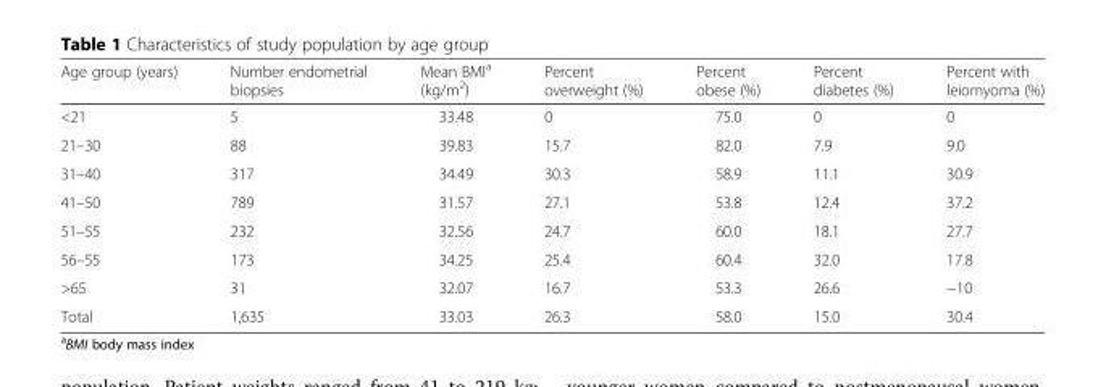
<table><thead><tr><td>Age group (years)</td><td>Number endometrial biopsies</td><td>Mean BMI<sup>a</sup> (kg/m<sup>2</sup>)</td><td>Percent overweight (%)</td><td>Percent obese (%)</td><td>Percent diabetes (%)</td><td>Percent with leiomyoma (%)</td></tr></thead><tbody><tr><td>&lt;21</td><td>5</td><td>33.48</td><td>0</td><td>75.0</td><td>0</td><td>0</td></tr><tr><td>21–30</td><td>88</td><td>39.83</td><td>15.7</td><td>82.0</td><td>7.9</td><td>9.0</td></tr><tr><td>31–40</td><td>317</td><td>34.49</td><td>30.3</td><td>58.9</td><td>11.1</td><td>30.9</td></tr><tr><td>41–50</td><td>789</td><td>31.57</td><td>27.1</td><td>53.8</td><td>12.4</td><td>37.2</td></tr><tr><td>51–55</td><td>232</td><td>32.56</td><td>24.7</td><td>60.0</td><td>18.1</td><td>27.7</td></tr><tr><td>56–55</td><td>173</td><td>34.25</td><td>25.4</td><td>60.4</td><td>32.0</td><td>17.8</td></tr><tr><td>&gt;65</td><td>31</td><td>32.07</td><td>16.7</td><td>53.3</td><td>26.6</td><td>−10</td></tr><tr><td>Total</td><td>1,635</td><td>33.03</td><td>26.3</td><td>58.0</td><td>15.0</td><td>30.4</td></tr></tbody></table>